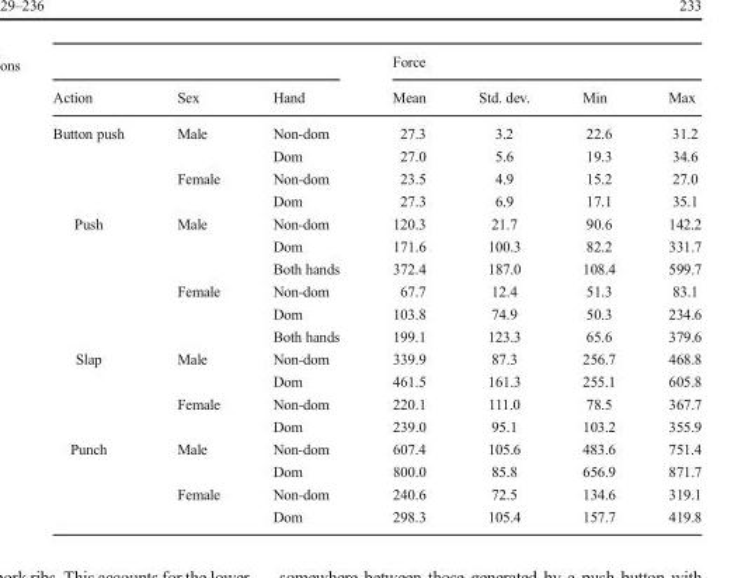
<table><thead><tr><td rowspan="2">Action</td><td rowspan="2">Sex</td><td rowspan="2">Hand</td><td colspan="4">Force</td></tr><tr><td>Mean</td><td>Std. dev.</td><td>Min</td><td>Max</td></tr></thead><tbody><tr><td rowspan="4">Button push</td><td rowspan="2">Male</td><td>Non-dom</td><td>27.3</td><td>3.2</td><td>22.6</td><td>31.2</td></tr><tr><td>Dom</td><td>27.0</td><td>5.6</td><td>19.3</td><td>34.6</td></tr><tr><td rowspan="2">Female</td><td>Non-dom</td><td>23.5</td><td>4.9</td><td>15.2</td><td>27.0</td></tr><tr><td>Dom</td><td>27.3</td><td>6.9</td><td>17.1</td><td>35.1</td></tr><tr><td rowspan="6">Push</td><td rowspan="3">Male</td><td>Non-dom</td><td>120.3</td><td>21.7</td><td>90.6</td><td>142.2</td></tr><tr><td>Dom</td><td>171.6</td><td>100.3</td><td>82.2</td><td>331.7</td></tr><tr><td>Both hands</td><td>372.4</td><td>187.0</td><td>108.4</td><td>599.7</td></tr><tr><td rowspan="3">Female</td><td>Non-dom</td><td>67.7</td><td>12.4</td><td>51.3</td><td>83.1</td></tr><tr><td>Dom</td><td>103.8</td><td>74.9</td><td>50.3</td><td>234.6</td></tr><tr><td>Both hands</td><td>199.1</td><td>123.3</td><td>65.6</td><td>379.6</td></tr><tr><td rowspan="4">Slap</td><td rowspan="2">Male</td><td>Non-dom</td><td>339.9</td><td>87.3</td><td>256.7</td><td>468.8</td></tr><tr><td>Dom</td><td>461.5</td><td>161.3</td><td>255.1</td><td>605.8</td></tr><tr><td rowspan="2">Female</td><td>Non-dom</td><td>220.1</td><td>111.0</td><td>78.5</td><td>367.7</td></tr><tr><td>Dom</td><td>239.0</td><td>95.1</td><td>103.2</td><td>355.9</td></tr><tr><td rowspan="4">Punch</td><td rowspan="2">Male</td><td>Non-dom</td><td>607.4</td><td>105.6</td><td>483.6</td><td>751.4</td></tr><tr><td>Dom</td><td>800.0</td><td>85.8</td><td>656.9</td><td>871.7</td></tr><tr><td rowspan="2">Female</td><td>Non-dom</td><td>240.6</td><td>72.5</td><td>134.6</td><td>319.1</td></tr><tr><td>Dom</td><td>298.3</td><td>105.4</td><td>157.7</td><td>419.8</td></tr></tbody></table>